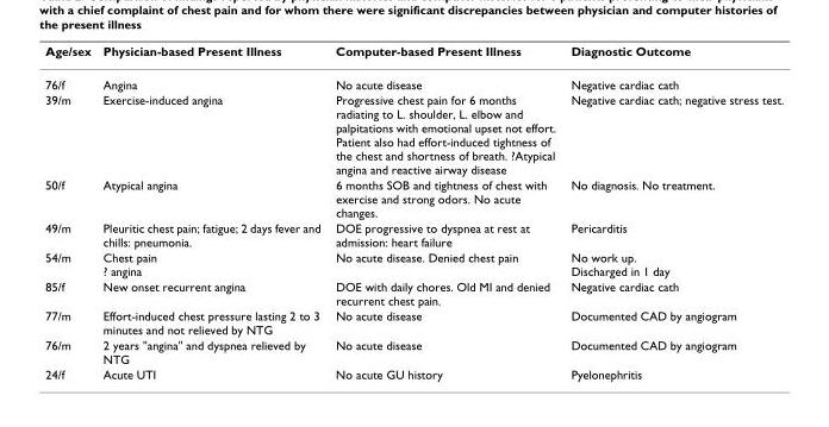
<table><thead><tr><td>Age/sex</td><td>Physician-based Present Illness</td><td>Computer-based Present Illness</td><td>Diagnostic Outcome</td></tr></thead><tbody><tr><td>76/f</td><td>Angina</td><td>No acute disease</td><td>Negative cardiac cath</td></tr><tr><td>39/m</td><td>Exercise-induced angina</td><td>Progressive chest pain for 6 months radiating to L. shoulder, L. elbow and palpitations with emotional upset not effort. Patient also had effort-induced tightness of the chest and shortness of breath. ?Atypical angina and reactive airway disease</td><td>Negative cardiac cath; negative stress test.</td></tr><tr><td>50/f</td><td>Atypical angina</td><td>6 months SOB and tightness of chest with exercise and strong odors. No acute changes.</td><td>No diagnosis. No treatment.</td></tr><tr><td>49/m</td><td>Pleuritic chest pain; fatigue; 2 days fever and chills: pneumonia.</td><td>DOE progressive to dyspnea at rest at admission: heart failure</td><td>Pericarditis</td></tr><tr><td>54/m</td><td>Chest pain ? angina</td><td>No acute disease. Denied chest pain</td><td>No work up. Discharged in 1 day</td></tr><tr><td>85/f</td><td>New onset recurrent angina</td><td>DOE with daily chores. Old MI and denied recurrent chest pain.</td><td>Negative cardiac cath</td></tr><tr><td>77/m</td><td>Effort-induced chest pressure lasting 2 to 3 minutes and not relieved by NTG</td><td>No acute disease</td><td>Documented CAD by angiogram</td></tr><tr><td>76/m</td><td>2 years &quot;angina&quot; and dyspnea relieved by NTG</td><td>No acute disease</td><td>Documented CAD by angiogram</td></tr><tr><td>24/f</td><td>Acute UTI</td><td>No acute GU history</td><td>Pyelonephritis</td></tr></tbody></table>